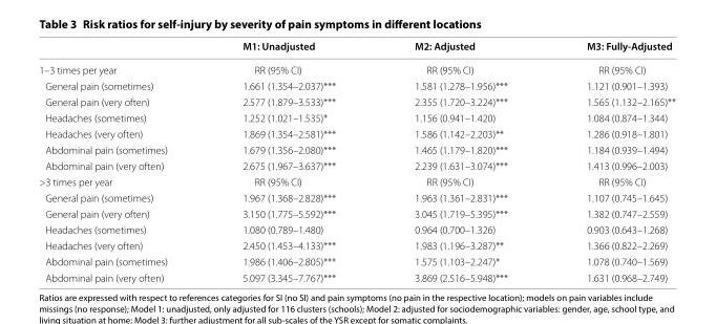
<table><thead><tr><td></td><td>M1: Unadjusted</td><td>M2: Adjusted</td><td>M3: Fully-Adjusted</td></tr></thead><tbody><tr><td>1–3 times per year</td><td>RR (95% CI)</td><td>RR (95% CI)</td><td>RR (95% CI)</td></tr><tr><td>General pain (sometimes)</td><td>1.661 (1.354–2.037)***</td><td>1.581 (1.278–1.956)***</td><td>1.121 (0.901–1.393)</td></tr><tr><td>General pain (very often)</td><td>2.577 (1.879–3.533)***</td><td>2.355 (1.720–3.224)***</td><td>1.565 (1.132–2.165)**</td></tr><tr><td>Headaches (sometimes)</td><td>1.252 (1.021–1.535)*</td><td>1.156 (0.941–1.420)</td><td>1.084 (0.874–1.344)</td></tr><tr><td>Headaches (very often)</td><td>1.869 (1.354–2.581)***</td><td>1.586 (1.142–2.203)**</td><td>1.286 (0.918–1.801)</td></tr><tr><td>Abdominal pain (sometimes)</td><td>1.679 (1.356–2.080)***</td><td>1.465 (1.179–1.820)***</td><td>1.184 (0.939–1.494)</td></tr><tr><td>Abdominal pain (very often)</td><td>2.675 (1.967–3.637)***</td><td>2.239 (1.631–3.074)***</td><td>1.413 (0.996–2.003)</td></tr><tr><td>&gt;3 times per year</td><td>RR (95% CI)</td><td>RR (95% CI)</td><td>RR (95% CI)</td></tr><tr><td>General pain (sometimes)</td><td>1.967 (1.368–2.828)***</td><td>1.963 (1.361–2.831)***</td><td>1.107 (0.745–1.645)</td></tr><tr><td>General pain (very often)</td><td>3.150 (1.775–5.592)***</td><td>3.045 (1.719–5.395)***</td><td>1.382 (0.747–2.559)</td></tr><tr><td>Headaches (sometimes)</td><td>1.080 (0.789–1.480)</td><td>0.964 (0.700–1.326)</td><td>0.903 (0.643–1.268)</td></tr><tr><td>Headaches (very often)</td><td>2.450 (1.453–4.133)***</td><td>1.983 (1.196–3.287)**</td><td>1.366 (0.822–2.269)</td></tr><tr><td>Abdominal pain (sometimes)</td><td>1.986 (1.406–2.805)***</td><td>1.575 (1.103–2.247)*</td><td>1.078 (0.740–1.569)</td></tr><tr><td>Abdominal pain (very often)</td><td>5.097 (3.345–7.767)***</td><td>3.869 (2.516–5.948)***</td><td>1.631 (0.968–2.749)</td></tr></tbody></table>